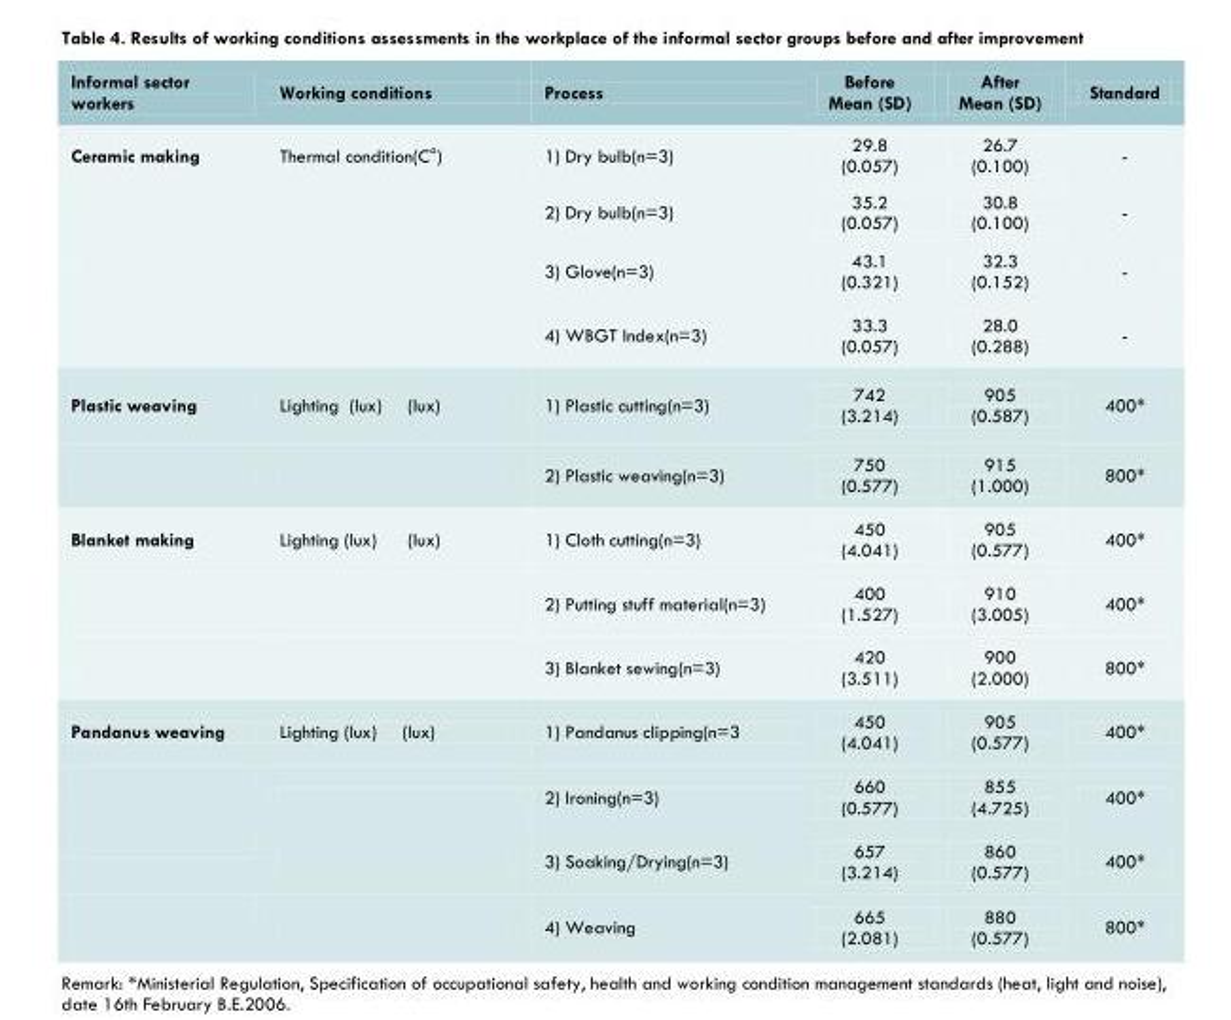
<table><thead><tr><td>Informal sector workers</td><td>Working conditions</td><td>Process</td><td>Before Mean (SD)</td><td>After Mean (SD)</td><td>Standard</td></tr></thead><tbody><tr><td rowspan="4">Ceramic making</td><td rowspan="4">Thermal condition(C°)</td><td>1) Dry bulb(n=3)</td><td>29.8 (0.057)</td><td>26.7 (0.100)</td><td>-</td></tr><tr><td>2) Dry bulb(n=3)</td><td>35.2 (0.057)</td><td>30.8 (0.100)</td><td>-</td></tr><tr><td>3) Glove(n=3)</td><td>43.1 (0.321)</td><td>32.3 (0.152)</td><td>-</td></tr><tr><td>4) WBGT Index(n=3)</td><td>33.3 (0.057)</td><td>28.0 (0.288)</td><td>-</td></tr><tr><td rowspan="2">Plastic weaving</td><td rowspan="2">Lighting (lux) (lux)</td><td>1) Plastic cutting(n=3)</td><td>742 (3.214)</td><td>905 (0.587)</td><td>400*</td></tr><tr><td>2) Plastic weaving(n=3)</td><td>750 (0.577)</td><td>915 (1.000)</td><td>800*</td></tr><tr><td rowspan="3">Blanket making</td><td rowspan="3">Lighting (lux) (lux)</td><td>1) Cloth cutting(n=3)</td><td>450 (4.041)</td><td>905 (0.577)</td><td>400*</td></tr><tr><td>2) Putting stuff material(n=3)</td><td>400 (1.527)</td><td>910 (3.005)</td><td>400*</td></tr><tr><td>3) Blanket sewing(n=3)</td><td>420 (3.511)</td><td>900 (2.000)</td><td>800*</td></tr><tr><td rowspan="4">Pandanus weaving</td><td rowspan="4">Lighting (lux) (lux)</td><td>1) Pandanus clipping(n=3</td><td>450 (4.041)</td><td>905 (0.577)</td><td>400*</td></tr><tr><td>2) Ironing(n=3)</td><td>660 (0.577)</td><td>855 (4.725)</td><td>400*</td></tr><tr><td>3) Soaking/Drying(n=3)</td><td>657 (3.214)</td><td>860 (0.577)</td><td>400*</td></tr><tr><td>4) Weaving</td><td>665 (2.081)</td><td>880 (0.577)</td><td>800*</td></tr></tbody></table>